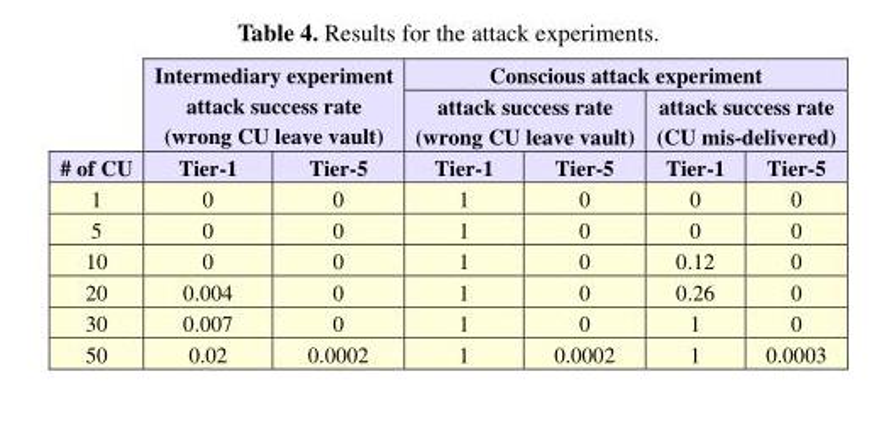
<table><thead><tr><td rowspan="3"># of CU</td><td rowspan="2" colspan="2">Intermediary experiment attack success rate (wrong CU leave vault)</td><td colspan="4">Conscious attack experiment</td></tr><tr><td colspan="2">attack success rate (wrong CU leave vault)</td><td colspan="2">attack success rate (CU mis-delivered)</td></tr><tr><td>Tier-1</td><td>Tier-5</td><td>Tier-1</td><td>Tier-5</td><td>Tier-1</td><td>Tier-5</td></tr></thead><tbody><tr><td>1</td><td>0</td><td>0</td><td>1</td><td>0</td><td>0</td><td>0</td></tr><tr><td>5</td><td>0</td><td>0</td><td>1</td><td>0</td><td>0</td><td>0</td></tr><tr><td>10</td><td>0</td><td>0</td><td>1</td><td>0</td><td>0.12</td><td>0</td></tr><tr><td>20</td><td>0.004</td><td>0</td><td>1</td><td>0</td><td>0.26</td><td>0</td></tr><tr><td>30</td><td>0.007</td><td>0</td><td>1</td><td>0</td><td>1</td><td>0</td></tr><tr><td>50</td><td>0.02</td><td>0.0002</td><td>1</td><td>0.0002</td><td>1</td><td>0.0003</td></tr></tbody></table>